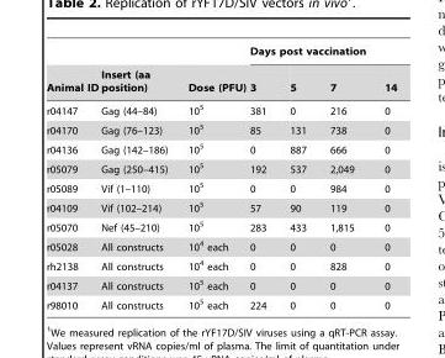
<table><thead><tr><td rowspan="2">Animal ID</td><td rowspan="2">Insert (aa position)</td><td rowspan="2">Dose (PFU)</td><td colspan="4">Days post vaccination</td></tr><tr><td>3</td><td>5</td><td>7</td><td>14</td></tr></thead><tbody><tr><td>r04147</td><td>Gag (44–84)</td><td>10<sup>5</sup></td><td>381</td><td>0</td><td>216</td><td>0</td></tr><tr><td>r04170</td><td>Gag (76–123)</td><td>10<sup>5</sup></td><td>85</td><td>131</td><td>738</td><td>0</td></tr><tr><td>r04136</td><td>Gag (142–186)</td><td>10<sup>5</sup></td><td>0</td><td>887</td><td>666</td><td>0</td></tr><tr><td>r05079</td><td>Gag (250–415)</td><td>10<sup>5</sup></td><td>192</td><td>537</td><td>2,049</td><td>0</td></tr><tr><td>r05089</td><td>Vif (1–110)</td><td>10<sup>5</sup></td><td>0</td><td>0</td><td>984</td><td>0</td></tr><tr><td>r04109</td><td>Vif (102–214)</td><td>10<sup>5</sup></td><td>57</td><td>90</td><td>119</td><td>0</td></tr><tr><td>r05070</td><td>Nef (45–210)</td><td>10<sup>5</sup></td><td>283</td><td>433</td><td>1,815</td><td>0</td></tr><tr><td>r05028</td><td>All constructs</td><td>10<sup>4</sup> each</td><td>0</td><td>0</td><td>0</td><td>0</td></tr><tr><td>rh2138</td><td>All constructs</td><td>10<sup>4</sup> each</td><td>0</td><td>0</td><td>828</td><td>0</td></tr><tr><td>r04137</td><td>All constructs</td><td>10<sup>5</sup> each</td><td>0</td><td>0</td><td>0</td><td>0</td></tr><tr><td>r98010</td><td>All constructs</td><td>10<sup>5</sup> each</td><td>224</td><td>0</td><td>0</td><td>0</td></tr></tbody></table>